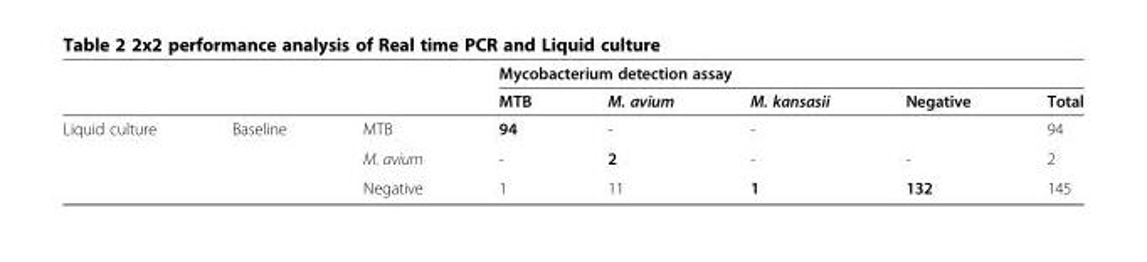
<table><thead><tr><td rowspan="2"></td><td rowspan="2"></td><td rowspan="2"></td><td colspan="5">Mycobacterium detection assay</td></tr><tr><td>MTB</td><td>M. avium</td><td>M. kansasii</td><td>Negative</td><td>Total</td></tr></thead><tbody><tr><td rowspan="3">Liquid culture</td><td rowspan="3">Baseline</td><td>MTB</td><td>94</td><td>-</td><td>-</td><td></td><td>94</td></tr><tr><td>M. avium</td><td>-</td><td>2</td><td>-</td><td>-</td><td>2</td></tr><tr><td>Negative</td><td>1</td><td>11</td><td>1</td><td>132</td><td>145</td></tr></tbody></table>